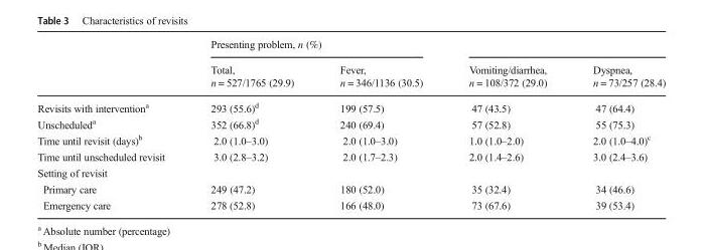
<table><thead><tr><td rowspan="2"></td><td colspan="2">Presenting problem, n (%)</td><td rowspan="2">Vomiting/diarrhea, n = 108/372 (29.0)</td><td rowspan="2">Dyspnea, n = 73/257 (28.4)</td></tr><tr><td>Total, n = 527/1765 (29.9)</td><td>Fever, n = 346/1136 (30.5)</td></tr></thead><tbody><tr><td>Revisits with intervention<sup>a</sup></td><td>293 (55.6)<sup>d</sup></td><td>199 (57.5)</td><td>47 (43.5)</td><td>47 (64.4)</td></tr><tr><td>Unscheduled<sup>a</sup></td><td>352 (66.8)<sup>d</sup></td><td>240 (69.4)</td><td>57 (52.8)</td><td>55 (75.3)</td></tr><tr><td>Time until revisit (days)<sup>b</sup></td><td>2.0 (1.0–3.0)</td><td>2.0 (1.0–3.0)</td><td>1.0 (1.0–2.0)</td><td>2.0 (1.0–4.0)<sup>c</sup></td></tr><tr><td>Time until unscheduled revisit</td><td>3.0 (2.8–3.2)</td><td>2.0 (1.7–2.3)</td><td>2.0 (1.4–2.6)</td><td>3.0 (2.4–3.6)</td></tr><tr><td colspan="5">Setting of revisit</td></tr><tr><td>Primary care</td><td>249 (47.2)</td><td>180 (52.0)</td><td>35 (32.4)</td><td>34 (46.6)</td></tr><tr><td>Emergency care</td><td>278 (52.8)</td><td>166 (48.0)</td><td>73 (67.6)</td><td>39 (53.4)</td></tr></tbody></table>